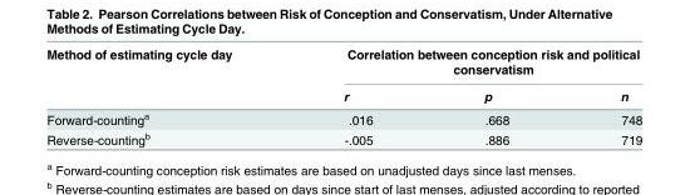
<table><thead><tr><td rowspan="2">Method of estimating cycle day</td><td colspan="3">Correlation between conception risk and political conservatism</td></tr><tr><td>r</td><td>p</td><td>n</td></tr></thead><tbody><tr><td>Forward-counting<sup>a</sup></td><td>.016</td><td>.668</td><td>748</td></tr><tr><td>Reverse-counting<sup>b</sup></td><td>-.005</td><td>.886</td><td>719</td></tr></tbody></table>